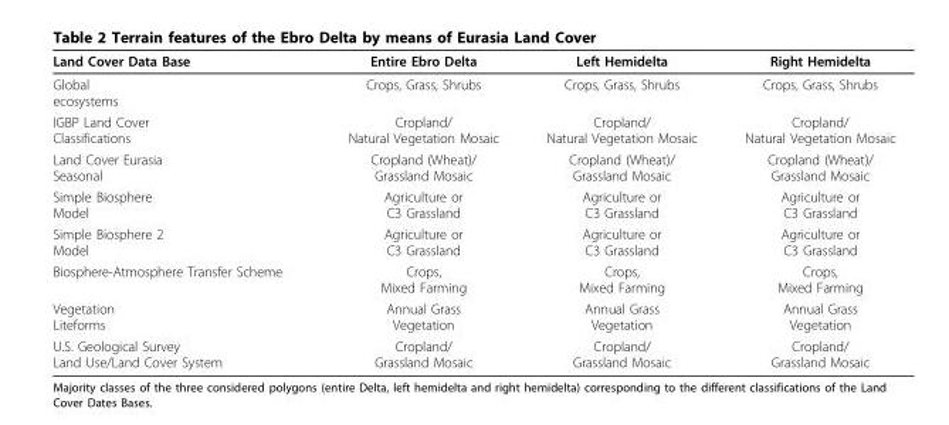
<table><thead><tr><td>Land Cover Data Base</td><td>Entire Ebro Delta</td><td>Left Hemidelta</td><td>Right Hemidelta</td></tr></thead><tbody><tr><td>Global ecosystems</td><td>Crops, Grass, Shrubs</td><td>Crops, Grass, Shrubs</td><td>Crops, Grass, Shrubs</td></tr><tr><td>IGBP Land Cover Classifications</td><td>Cropland/ Natural Vegetation Mosaic</td><td>Cropland/ Natural Vegetation Mosaic</td><td>Cropland/ Natural Vegetation Mosaic</td></tr><tr><td>Land Cover Eurasia Seasonal</td><td>Cropland (Wheat)/ Grassland Mosaic</td><td>Cropland (Wheat)/ Grassland Mosaic</td><td>Cropland (Wheat)/ Grassland Mosaic</td></tr><tr><td>Simple Biosphere Model</td><td>Agriculture or C3 Grassland</td><td>Agriculture or C3 Grassland</td><td>Agriculture or C3 Grassland</td></tr><tr><td>Simple Biosphere 2 Model</td><td>Agriculture or C3 Grassland</td><td>Agriculture or C3 Grassland</td><td>Agriculture or C3 Grassland</td></tr><tr><td>Biosphere-Atmosphere Transfer Scheme</td><td>Crops, Mixed Farming</td><td>Crops, Mixed Farming</td><td>Crops, Mixed Farming</td></tr><tr><td>Vegetation Liteforms</td><td>Annual Grass Vegetation</td><td>Annual Grass Vegetation</td><td>Annual Grass Vegetation</td></tr><tr><td>U.S. Geological Survey Land Use/Land Cover System</td><td>Cropland/ Grassland Mosaic</td><td>Cropland/ Grassland Mosaic</td><td>Cropland/ Grassland Mosaic</td></tr></tbody></table>